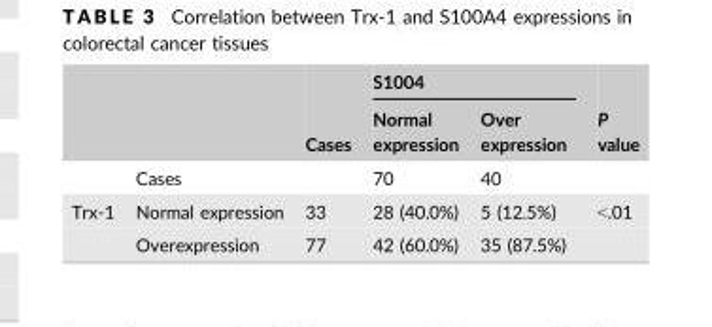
<table><thead><tr><td rowspan="2"></td><td rowspan="2"></td><td rowspan="2">Cases</td><td colspan="2">S1004</td><td rowspan="2">P value</td></tr><tr><td>Normal expression</td><td>Over expression</td></tr></thead><tbody><tr><td></td><td>Cases</td><td></td><td>70</td><td>40</td><td></td></tr><tr><td rowspan="2">Trx-1</td><td>Normal expression</td><td>33</td><td>28 (40.0%)</td><td>5 (12.5%)</td><td>˂.01</td></tr><tr><td>Overexpression</td><td>77</td><td>42 (60.0%)</td><td>35 (87.5%)</td><td></td></tr></tbody></table>